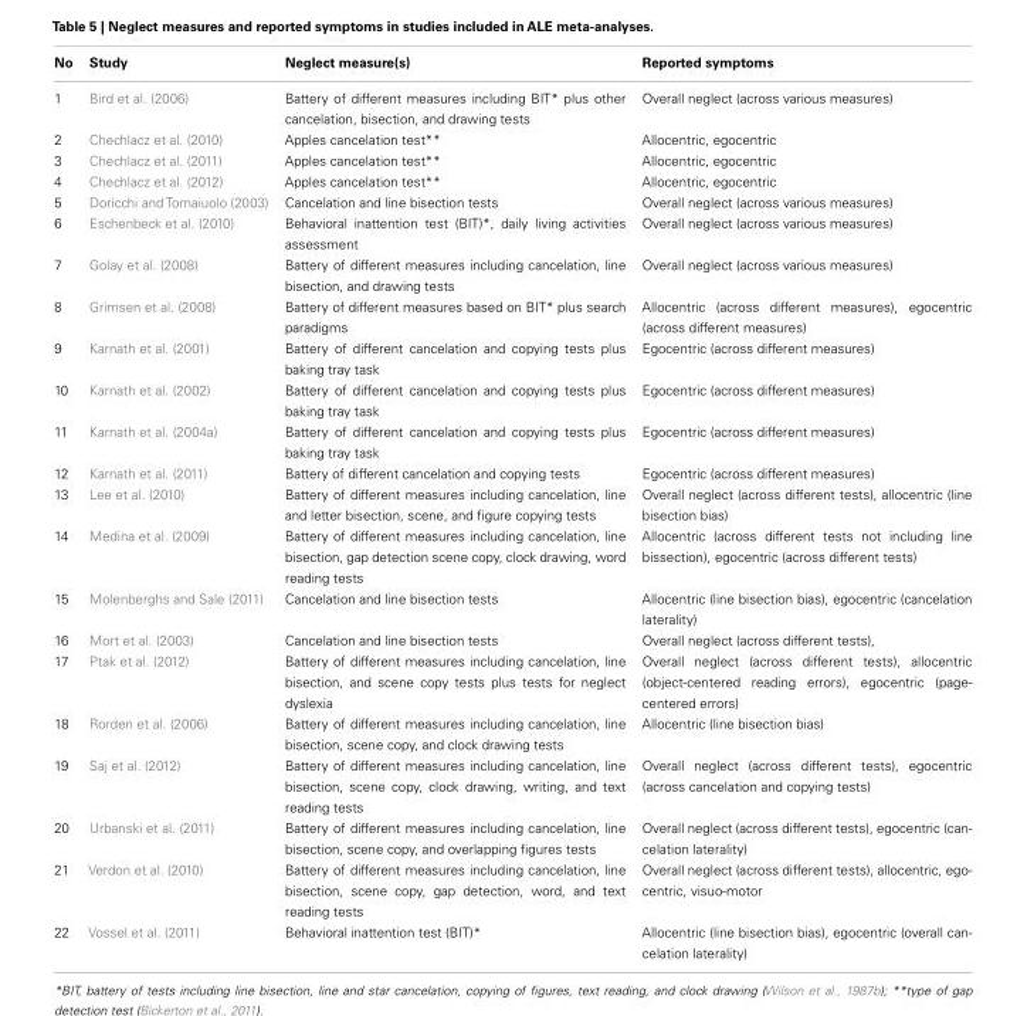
<table><thead><tr><td>No</td><td>Study</td><td>Neglect measure(s)</td><td>Reported symptoms</td></tr></thead><tbody><tr><td>1</td><td>Bird et al. (2006)</td><td>Battery of different measures including BIT* plus other cancelation, bisection, and drawing tests</td><td>Overall neglect (across various measures)</td></tr><tr><td>2</td><td>Chechlacz et al. (2010)</td><td>Apples cancelation test**</td><td>Allocentric, egocentric</td></tr><tr><td>3</td><td>Chechlacz et al. (2011)</td><td>Apples cancelation test**</td><td>Allocentric, egocentric</td></tr><tr><td>4</td><td>Chechlacz et al. (2012)</td><td>Apples cancelation test**</td><td>Allocentric, egocentric</td></tr><tr><td>5</td><td>Doricchi and Tomaiuolo (2003)</td><td>Cancelation and line bisection tests</td><td>Overall neglect (across various measures)</td></tr><tr><td>6</td><td>Eschenbeck et al. (2010)</td><td>Behavioral inattention test (BIT)*, daily living activities assessment</td><td>Overall neglect (across various measures)</td></tr><tr><td>7</td><td>Golay et al. (2008)</td><td>Battery of different measures including cancelation, line bisection, and drawing tests</td><td>Overall neglect (across various measures)</td></tr><tr><td>8</td><td>Grimsen et al. (2008)</td><td>Battery of different measures based on BIT* plus search paradigms</td><td>Allocentric (across different measures), egocentric (across different measures)</td></tr><tr><td>9</td><td>Karnath et al. (2001)</td><td>Battery of different cancelation and copying tests plus baking tray task</td><td>Egocentric (across different measures)</td></tr><tr><td>10</td><td>Karnath et al. (2002)</td><td>Battery of different cancelation and copying tests plus baking tray task</td><td>Egocentric (across different measures)</td></tr><tr><td>11</td><td>Karnath et al. (2004a)</td><td>Battery of different cancelation and copying tests plus baking tray task</td><td>Egocentric (across different measures)</td></tr><tr><td>12</td><td>Karnath et al. (2011)</td><td>Battery of different cancelation and copying tests</td><td>Egocentric (across different measures)</td></tr><tr><td>13</td><td>Lee et al. (2010)</td><td>Battery of different measures including cancelation, line and letter bisection, scene, and figure copying tests</td><td>Overall neglect (across different tests), allocentric (line bisection bias)</td></tr><tr><td>14</td><td>Medina et al. (2009)</td><td>Battery of different measures including cancelation, line bisection, gap detection scene copy, clock drawing, word reading tests</td><td>Allocentric (across different tests not including line bissection), egocentric (across different tests)</td></tr><tr><td>15</td><td>Molenberghs and Sale (2011)</td><td>Cancelation and line bisection tests</td><td>Allocentric (line bisection bias), egocentric (cancelation laterality)</td></tr><tr><td>16</td><td>Mort et al. (2003)</td><td>Cancelation and line bisection tests</td><td>Overall neglect (across different tests),</td></tr><tr><td>17</td><td>Ptak et al. (2012)</td><td>Battery of different measures including cancelation, line bisection, and scene copy tests plus tests for neglect dyslexia</td><td>Overall neglect (across different tests), allocentric (object-centered reading errors), egocentric (page- centered errors)</td></tr><tr><td>18</td><td>Rorden et al. (2006)</td><td>Battery of different measures including cancelation, line bisection, scene copy, and clock drawing tests</td><td>Allocentric (line bisection bias)</td></tr><tr><td>19</td><td>Saj et al. (2012)</td><td>Battery of different measures including cancelation, line bisection, scene copy, clock drawing, writing, and text reading tests</td><td>Overall neglect (across different tests), egocentric (across cancelation and copying tests)</td></tr><tr><td>20</td><td>Urbanski et al. (2011)</td><td>Battery of different measures including cancelation, line bisection, scene copy, and overlapping figures tests</td><td>Overall neglect (across different tests), egocentric (can- celation laterality)</td></tr><tr><td>21</td><td>Verdon et al. (2010)</td><td>Battery of different measures including cancelation, line bisection, scene copy, gap detection, word, and text reading tests</td><td>Overall neglect (across different tests), allocentric, ego- centric, visuo-motor</td></tr><tr><td>22</td><td>Vossel et al. (2011)</td><td>Behavioral inattention test (BIT)*</td><td>Allocentric (line bisection bias), egocentric (overall can- celation laterality)</td></tr></tbody></table>